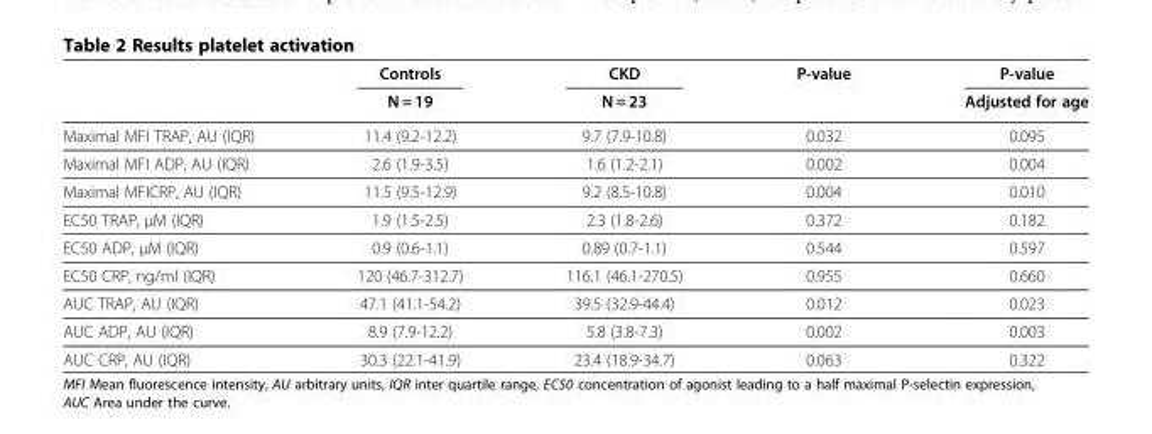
<table><thead><tr><td rowspan="2"></td><td rowspan="2">Controls N = 19</td><td rowspan="2">CKD N = 23</td><td rowspan="2">P-value</td><td rowspan="2">P-value Adjusted for age</td></tr><tr></tr></thead><tbody><tr><td>Maximal MFI TRAP, AU (IQR)</td><td>11.4 (9.2-12.2)</td><td>9.7 (7.9-10.8)</td><td>0.032</td><td>0.095</td></tr><tr><td>Maximal MFI ADP, AU (IQR)</td><td>2.6 (1.9-3.5)</td><td>1.6 (1.2-2.1)</td><td>0.002</td><td>0.004</td></tr><tr><td>Maximal MFICRP, AU (IQR)</td><td>11.5 (9.5-12.9)</td><td>9.2 (8.5-10.8)</td><td>0.004</td><td>0.010</td></tr><tr><td>EC50 TRAP, μM (IQR)</td><td>1.9 (1.5-2.5)</td><td>2.3 (1.8-2.6)</td><td>0.372</td><td>0.182</td></tr><tr><td>EC50 ADP, μM (IQR)</td><td>0.9 (0.6-1.1)</td><td>0.89 (0.7-1.1)</td><td>0.544</td><td>0.597</td></tr><tr><td>EC50 CRP, ng/ml (IQR)</td><td>120 (46.7-312.7)</td><td>116.1 (46.1-270.5)</td><td>0.955</td><td>0.660</td></tr><tr><td>AUC TRAP, AU (IQR)</td><td>47.1 (41.1-54.2)</td><td>39.5 (32.9-44.4)</td><td>0.012</td><td>0.023</td></tr><tr><td>AUC ADP, AU (IQR)</td><td>8.9 (7.9-12.2)</td><td>5.8 (3.8-7.3)</td><td>0.002</td><td>0.003</td></tr><tr><td>AUC CRP, AU (IQR)</td><td>30.3 (22.1-41.9)</td><td>23.4 (18.9-34.7)</td><td>0.063</td><td>0.322</td></tr></tbody></table>